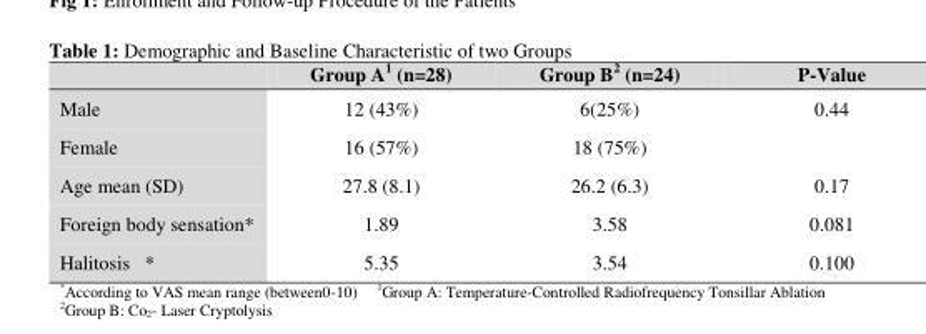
<table><thead><tr><td></td><td>Group A1 (n=28)</td><td>Group B2 (n=24)</td><td>P-Value</td></tr></thead><tbody><tr><td>Male</td><td>12 (43%)</td><td>6(25%)</td><td>0.44</td></tr><tr><td>Female</td><td>16 (57%)</td><td>18 (75%)</td><td></td></tr><tr><td>Age mean (SD)</td><td>27.8 (8.1)</td><td>26.2 (6.3)</td><td>0.17</td></tr><tr><td>Foreign body sensation*</td><td>1.89</td><td>3.58</td><td>0.081</td></tr><tr><td>Halitosis *</td><td>5.35</td><td>3.54</td><td>0.100</td></tr></tbody></table>